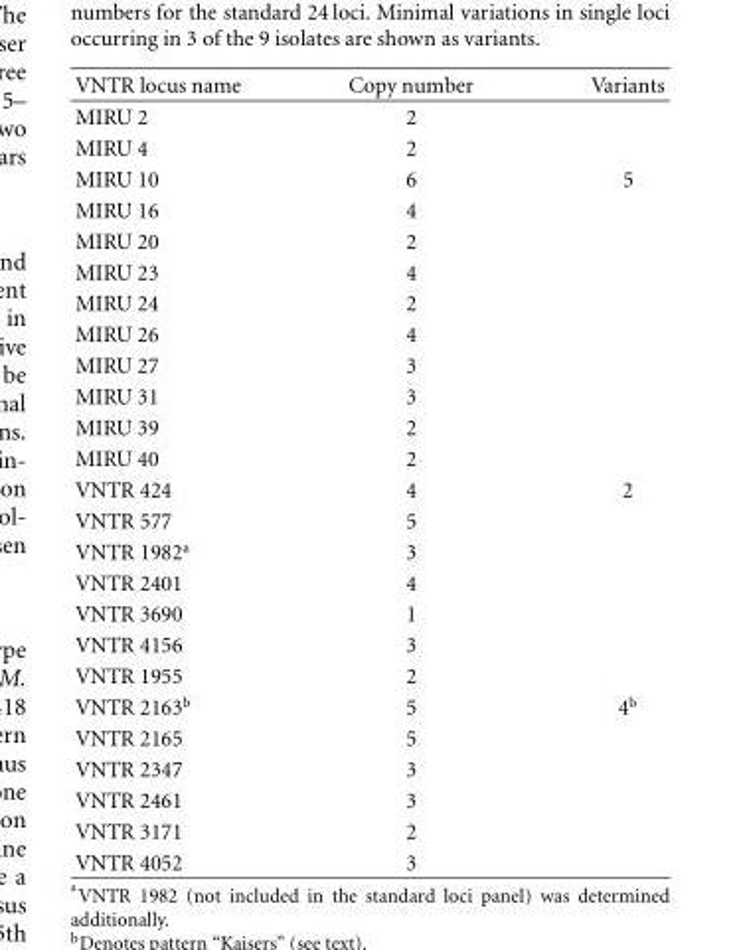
<table><thead><tr><td>VNTR locus name</td><td>Copy number</td><td>Variants</td></tr></thead><tbody><tr><td>MIRU 2</td><td>2</td><td></td></tr><tr><td>MIRU 4</td><td>2</td><td></td></tr><tr><td>MIRU 10</td><td>6</td><td>5</td></tr><tr><td>MIRU 16</td><td>4</td><td></td></tr><tr><td>MIRU 20</td><td>2</td><td></td></tr><tr><td>MIRU 23</td><td>4</td><td></td></tr><tr><td>MIRU 24</td><td>2</td><td></td></tr><tr><td>MIRU 26</td><td>4</td><td></td></tr><tr><td>MIRU 27</td><td>3</td><td></td></tr><tr><td>MIRU 31</td><td>3</td><td></td></tr><tr><td>MIRU 39</td><td>2</td><td></td></tr><tr><td>MIRU 40</td><td>2</td><td></td></tr><tr><td>VNTR 424</td><td>4</td><td>2</td></tr><tr><td>VNTR 577</td><td>5</td><td></td></tr><tr><td>VNTR 1982<sup>a</sup></td><td>3</td><td></td></tr><tr><td>VNTR 2401</td><td>4</td><td></td></tr><tr><td>VNTR 3690</td><td>1</td><td></td></tr><tr><td>VNTR 4156</td><td>3</td><td></td></tr><tr><td>VNTR 1955</td><td>2</td><td></td></tr><tr><td>VNTR 2163<sup>b</sup></td><td>5</td><td>4<sup>b</sup></td></tr><tr><td>VNTR 2165</td><td>5</td><td></td></tr><tr><td>VNTR 2347</td><td>3</td><td></td></tr><tr><td>VNTR 2461</td><td>3</td><td></td></tr><tr><td>VNTR 3171</td><td>2</td><td></td></tr><tr><td>VNTR 4052</td><td>3</td><td></td></tr></tbody></table>